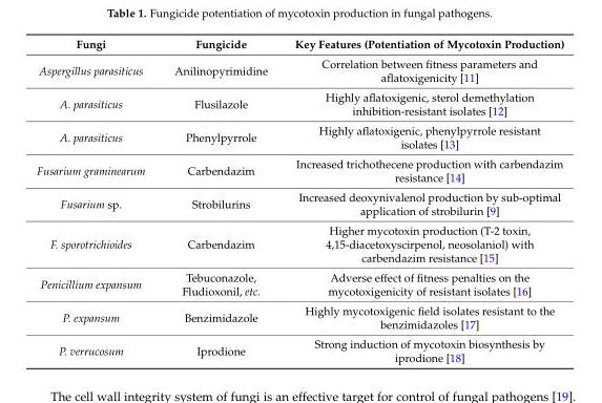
<table><thead><tr><td>Fungi</td><td>Fungicide</td><td>Key Features (Potentiation of Mycotoxin Production)</td></tr></thead><tbody><tr><td>Aspergillus parasiticus</td><td>Anilinopyrimidine</td><td>Correlation between fitness parameters and aflatoxigenicity [11]</td></tr><tr><td>A. parasiticus</td><td>Flusilazole</td><td>Highly aflatoxigenic, sterol demethylation inhibition-resistant isolates [12]</td></tr><tr><td>A. parasiticus</td><td>Phenylpyrrole</td><td>Highly aflatoxigenic, phenylpyrrole resistant isolates [13]</td></tr><tr><td>Fusarium graminearum</td><td>Carbendazim</td><td>Increased trichothecene production with carbendazim resistance [14]</td></tr><tr><td>Fusarium sp.</td><td>Strobilurins</td><td>Increased deoxynivalenol production by sub-optimal application of strobilurin [9]</td></tr><tr><td>F. sporotrichioides</td><td>Carbendazim</td><td>Higher mycotoxin production (T-2 toxin, 4,15-diacetoxyscirpenol, neosolaniol) with carbendazim resistance [15]</td></tr><tr><td>Penicillium expansum</td><td>Tebuconazole, Fludioxonil, etc.</td><td>Adverse effect of fitness penalties on the mycotoxigenicity of resistant isolates [16]</td></tr><tr><td>P. expansum</td><td>Benzimidazole</td><td>Highly mycotoxigenic field isolates resistant to the benzimidazoles [17]</td></tr><tr><td>P. verrucosum</td><td>Iprodione</td><td>Strong induction of mycotoxin biosynthesis by iprodione [18]</td></tr></tbody></table>